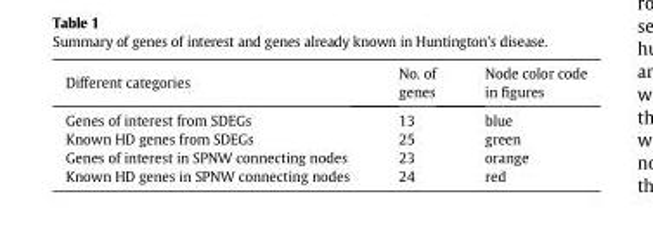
<table><thead><tr><td>Different categories</td><td>No. of genes</td><td>Node color code in figures</td></tr></thead><tbody><tr><td>Genes of interest from SDEGs</td><td>13</td><td>blue</td></tr><tr><td>Known HD genes from SDEGs</td><td>25</td><td>green</td></tr><tr><td>Genes of interest in SPNW connecting nodes</td><td>23</td><td>orange</td></tr><tr><td>Known HD genes in SPNW connecting nodes</td><td>24</td><td>red</td></tr></tbody></table>